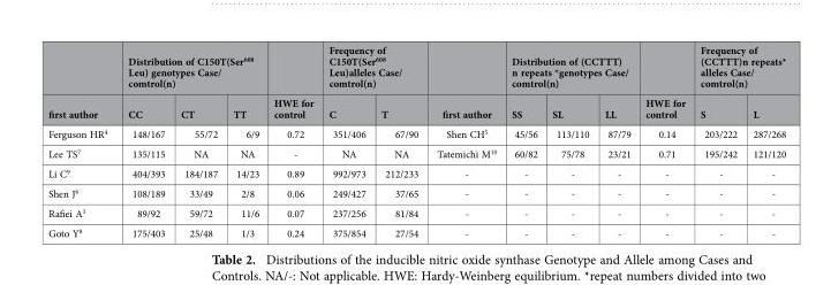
<table><thead><tr><td rowspan="2">first author</td><td colspan="3">Distribution of C150T(Ser<sup>608</sup> Leu) genotypes Case/ comtrol(n)</td><td rowspan="2">HWE for control</td><td colspan="2">Frequency of C150T(Ser<sup>608</sup> Leu)alleles Case/ comtrol(n)</td><td rowspan="2">first author</td><td colspan="3">Distribution of (CCTTT) n repeats *genotypes Case/ comtrol(n)</td><td rowspan="2">HWE for control</td><td colspan="2">Frequency of (CCTTT)n repeats* alleles Case/ comtrol(n)</td></tr><tr><td>CC</td><td>CT</td><td>TT</td><td>C</td><td>T</td><td>SS</td><td>SL</td><td>LL</td><td>S</td><td>L</td></tr></thead><tbody><tr><td>Ferguson HR<sup>4</sup></td><td>148/167</td><td>55/72</td><td>6/9</td><td>0.72</td><td>351/406</td><td>67/90</td><td>Shen CH<sup>5</sup></td><td>45/56</td><td>113/110</td><td>87/79</td><td>0.14</td><td>203/222</td><td>287/268</td></tr><tr><td>Lee TS<sup>7</sup></td><td>135/115</td><td>NA</td><td>NA</td><td>-</td><td>NA</td><td>NA</td><td>Tatemichi M<sup>10</sup></td><td>60/82</td><td>75/78</td><td>23/21</td><td>0.71</td><td>195/242</td><td>121/120</td></tr><tr><td>Li C<sup>9</sup></td><td>404/393</td><td>184/187</td><td>14/23</td><td>0.89</td><td>992/973</td><td>212/233</td><td>-</td><td>-</td><td>-</td><td>-</td><td>-</td><td>-</td><td>-</td></tr><tr><td>Shen J<sup>6</sup></td><td>108/189</td><td>33/49</td><td>2/8</td><td>0.06</td><td>249/427</td><td>37/65</td><td>-</td><td>-</td><td>-</td><td>-</td><td>-</td><td>-</td><td>-</td></tr><tr><td>Rafiei A<sup>3</sup></td><td>89/92</td><td>59/72</td><td>11/6</td><td>0.07</td><td>237/256</td><td>81/84</td><td>-</td><td>-</td><td>-</td><td>-</td><td>-</td><td>-</td><td>-</td></tr><tr><td>Goto Y<sup>8</sup></td><td>175/403</td><td>25/48</td><td>1/3</td><td>0.24</td><td>375/854</td><td>27/54</td><td>-</td><td>-</td><td>-</td><td>-</td><td>-</td><td>-</td><td>-</td></tr></tbody></table>